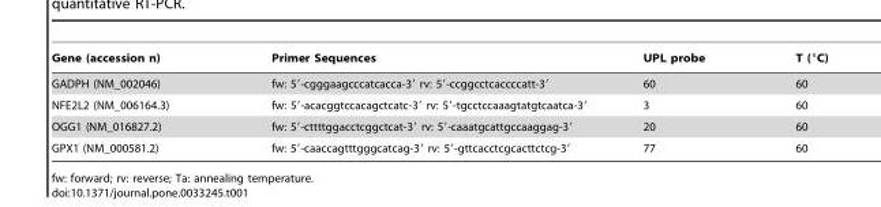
<table><thead><tr><td>Gene (accession n)</td><td>Primer Sequences</td><td>UPL probe</td><td>T (°C)</td></tr></thead><tbody><tr><td>GADPH (NM_002046)</td><td>fw: 5′-cgggaagcccatcacca-3′ rv: 5′-ccggcctcaccccatt-3′</td><td>60</td><td>60</td></tr><tr><td>NFE2L2 (NM_006164.3)</td><td>fw: 5′-acacggtccacagctcatc-3′ rv: 5′-tgcctccaaagtatgtcaatca-3′</td><td>3</td><td>60</td></tr><tr><td>OGG1 (NM_016827.2)</td><td>fw: 5′-cttttggacctcggctcat-3′ rv: 5′-caaatgcattgccaaggag-3′</td><td>20</td><td>60</td></tr><tr><td>GPX1 (NM_000581.2)</td><td>fw: 5′-caaccagtttgggcatcag-3′ rv: 5′-gttcacctcgcacttctcg-3′</td><td>77</td><td>60</td></tr></tbody></table>